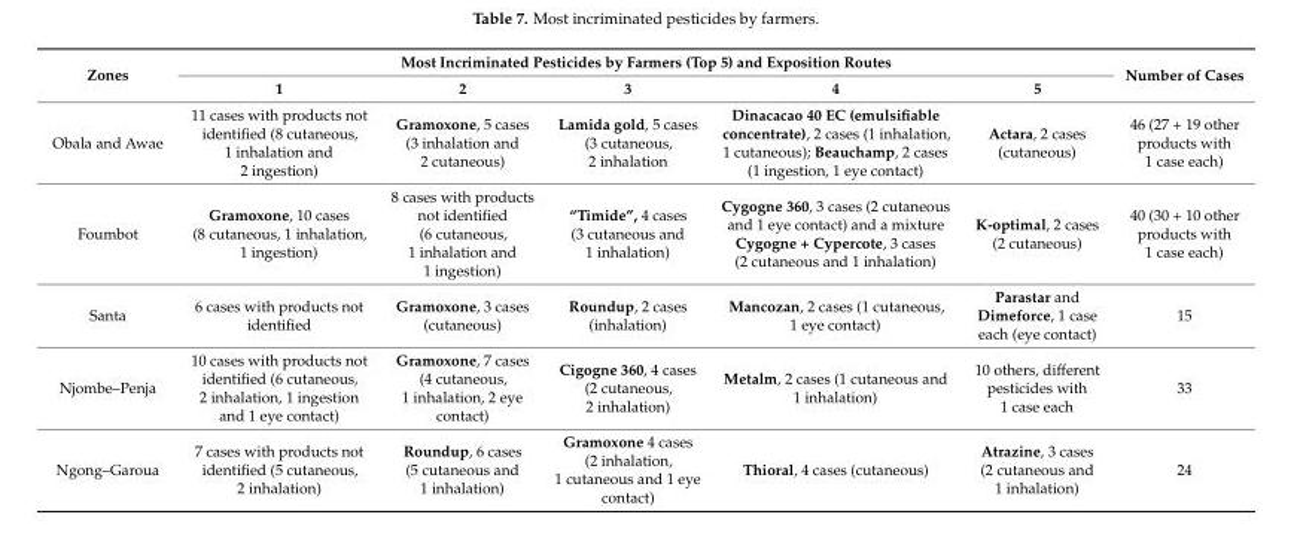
<table><thead><tr><td rowspan="2">Zones</td><td colspan="5">Most Incriminated Pesticides by Farmers (Top 5) and Exposition Routes</td><td rowspan="2">Number of Cases</td></tr><tr><td>1</td><td>2</td><td>3</td><td>4</td><td>5</td></tr></thead><tbody><tr><td>Obala and Awae</td><td>11 cases with products not identified (8 cutaneous, 1 inhalation and 2 ingestion)</td><td>Gramoxone, 5 cases (3 inhalation and 2 cutaneous)</td><td>Lamida gold, 5 cases (3 cutaneous, 2 inhalation</td><td>Dinacacao 40 EC (emulsifiable concentrate), 2 cases (1 inhalation, 1 cutaneous); Beauchamp, 2 cases (1 ingestion, 1 eye contact)</td><td>Actara, 2 cases (cutaneous)</td><td>46 (27 + 19 other products with 1 case each)</td></tr><tr><td>Foumbot</td><td>Gramoxone, 10 cases (8 cutaneous, 1 inhalation, 1 ingestion)</td><td>8 cases with products not identified (6 cutaneous, 1 inhalation and 1 ingestion)</td><td>“Timide”, 4 cases (3 cutaneous and 1 inhalation)</td><td>Cygogne 360, 3 cases (2 cutaneous and 1 eye contact) and a mixture Cygogne + Cypercote, 3 cases (2 cutaneous and 1 inhalation)</td><td>K-optimal, 2 cases (2 cutaneous)</td><td>40 (30 + 10 other products with 1 case each)</td></tr><tr><td>Santa</td><td>6 cases with products not identified</td><td>Gramoxone, 3 cases (cutaneous)</td><td>Roundup, 2 cases (inhalation)</td><td>Mancozan, 2 cases (1 cutaneous, 1 eye contact)</td><td>Parastar and Dimeforce, 1 case each (eye contact)</td><td>15</td></tr><tr><td>Njombe–Penja</td><td>10 cases with products not identified (6 cutaneous, 2 inhalation, 1 ingestion and 1 eye contact)</td><td>Gramoxone, 7 cases (4 cutaneous, 1 inhalation, 2 eye contact)</td><td>Cigogne 360, 4 cases (2 cutaneous, 2 inhalation)</td><td>Metalm, 2 cases (1 cutaneous and 1 inhalation)</td><td>10 others, different pesticides with 1 case each</td><td>33</td></tr><tr><td>Ngong–Garoua</td><td>7 cases with products not identified (5 cutaneous, 2 inhalation)</td><td>Roundup, 6 cases (5 cutaneous and 1 inhalation)</td><td>Gramoxone 4 cases (2 inhalation, 1 cutaneous and 1 eye contact)</td><td>Thioral, 4 cases (cutaneous)</td><td>Atrazine, 3 cases (2 cutaneous and 1 inhalation)</td><td>24</td></tr></tbody></table>